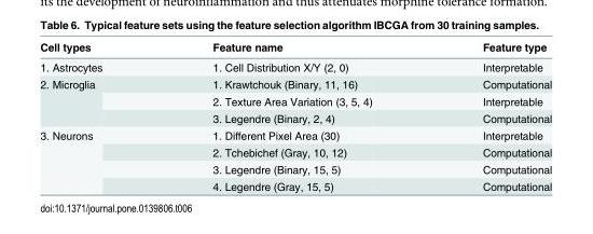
<table><thead><tr><td>Cell types</td><td>Feature name</td><td>Feature type</td></tr></thead><tbody><tr><td>1. Astrocytes</td><td>1. Cell Distribution X/Y (2, 0)</td><td>Interpretable</td></tr><tr><td rowspan="3">2. Microglia</td><td>1. Krawtchouk (Binary, 11, 16)</td><td>Computational</td></tr><tr><td>2. Texture Area Variation (3, 5, 4)</td><td>Interpretable</td></tr><tr><td>3. Legendre (Binary, 2, 4)</td><td>Computational</td></tr><tr><td rowspan="4">3. Neurons</td><td>1. Different Pixel Area (30)</td><td>Interpretable</td></tr><tr><td>2. Tchebichef (Gray, 10, 12)</td><td>Computational</td></tr><tr><td>3. Legendre (Binary, 15, 5)</td><td>Computational</td></tr><tr><td>4. Legendre (Gray, 15, 5)</td><td>Computational</td></tr></tbody></table>